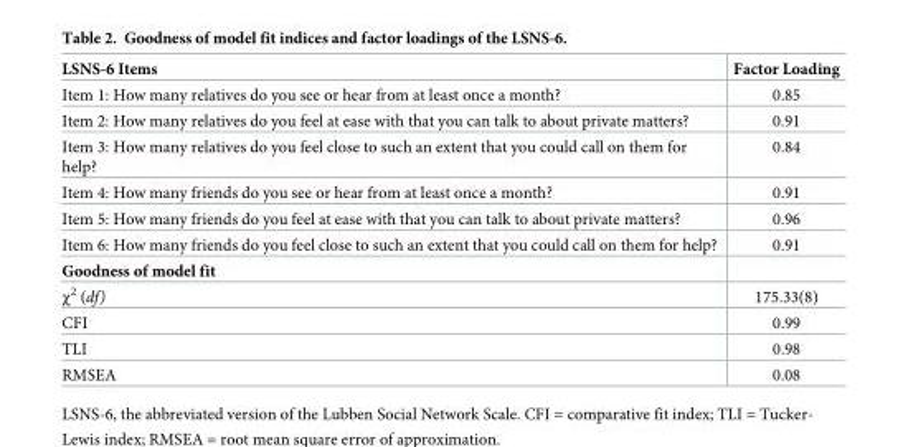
<table><thead><tr><td>LSNS-6 Items</td><td>Factor Loading</td></tr></thead><tbody><tr><td>Item 1: How many relatives do you see or hear from at least once a month?</td><td>0.85</td></tr><tr><td>Item 2: How many relatives do you feel at ease with that you can talk to about private matters?</td><td>0.91</td></tr><tr><td>Item 3: How many relatives do you feel close to such an extent that you could call on them for help?</td><td>0.84</td></tr><tr><td>Item 4: How many friends do you see or hear from at least once a month?</td><td>0.91</td></tr><tr><td>Item 5: How many friends do you feel at ease with that you can talk to about private matters?</td><td>0.96</td></tr><tr><td>Item 6: How many friends do you feel close to such an extent that you could call on them for help?</td><td>0.91</td></tr><tr><td colspan="2">Goodness of model fit</td></tr><tr><td>χ<sup>2</sup> (df)</td><td>175.33(8)</td></tr><tr><td>CFI</td><td>0.99</td></tr><tr><td>TLI</td><td>0.98</td></tr><tr><td>RMSEA</td><td>0.08</td></tr></tbody></table>